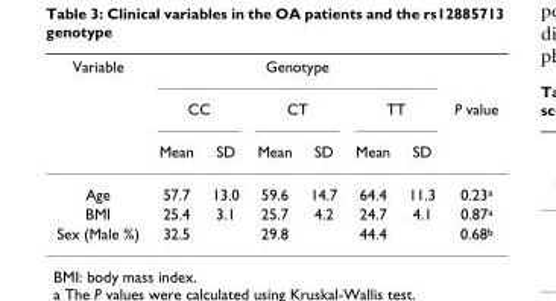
<table><thead><tr><td rowspan="3">Variable</td><td colspan="6">Genotype</td><td rowspan="3">P value</td></tr><tr><td colspan="2">CC</td><td colspan="2">CT</td><td colspan="2">TT</td></tr><tr><td>Mean</td><td>SD</td><td>Mean</td><td>SD</td><td>Mean</td><td>SD</td></tr></thead><tbody><tr><td>Age</td><td>57.7</td><td>13.0</td><td>59.6</td><td>14.7</td><td>64.4</td><td>11.3</td><td>0.23<sup>a</sup></td></tr><tr><td>BMI</td><td>25.4</td><td>3.1</td><td>25.7</td><td>4.2</td><td>24.7</td><td>4.1</td><td>0.87<sup>a</sup></td></tr><tr><td>Sex (Male %)</td><td>32.5</td><td></td><td>29.8</td><td></td><td>44.4</td><td></td><td>0.68<sup>b</sup></td></tr></tbody></table>